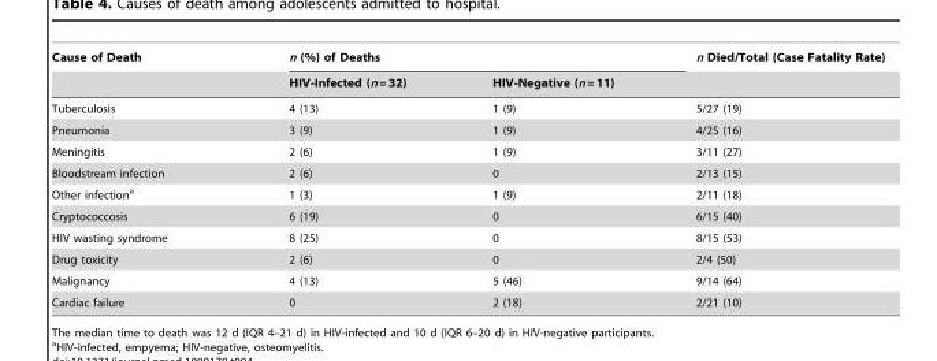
<table><thead><tr><td rowspan="2">Cause of Death</td><td colspan="2">n (%) of Deaths</td><td rowspan="2">n Died/Total (Case Fatality Rate)</td></tr><tr><td>HIV-Infected (n = 32)</td><td>HIV-Negative (n = 11)</td></tr></thead><tbody><tr><td>Tuberculosis</td><td>4 (13)</td><td>1 (9)</td><td>5/27 (19)</td></tr><tr><td>Pneumonia</td><td>3 (9)</td><td>1 (9)</td><td>4/25 (16)</td></tr><tr><td>Meningitis</td><td>2 (6)</td><td>1 (9)</td><td>3/11 (27)</td></tr><tr><td>Bloodstream infection</td><td>2 (6)</td><td>0</td><td>2/13 (15)</td></tr><tr><td>Other infection<sup>a</sup></td><td>1 (3)</td><td>1 (9)</td><td>2/11 (18)</td></tr><tr><td>Cryptococcosis</td><td>6 (19)</td><td>0</td><td>6/15 (40)</td></tr><tr><td>HIV wasting syndrome</td><td>8 (25)</td><td>0</td><td>8/15 (53)</td></tr><tr><td>Drug toxicity</td><td>2 (6)</td><td>0</td><td>2/4 (50)</td></tr><tr><td>Malignancy</td><td>4 (13)</td><td>5 (46)</td><td>9/14 (64)</td></tr><tr><td>Cardiac failure</td><td>0</td><td>2 (18)</td><td>2/21 (10)</td></tr></tbody></table>